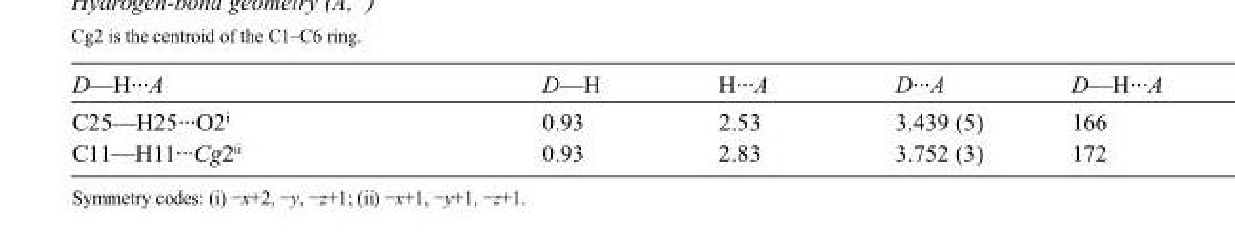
<table><tbody><tr><td>D—H···A</td><td>D—H</td><td>H···A</td><td>D···A</td><td>D—H···A</td></tr><tr><td>C25—H25···O2<sup>i</sup></td><td>0.93</td><td>2.53</td><td>3.439 (5)</td><td>166</td></tr><tr><td>C11—H11···Cg2<sup>ii</sup></td><td>0.93</td><td>2.83</td><td>3.752 (3)</td><td>172</td></tr></tbody></table>